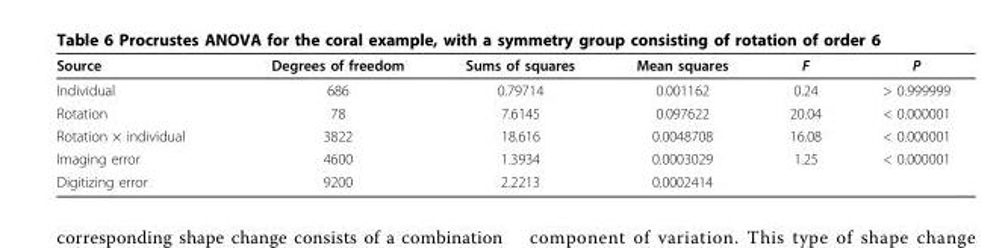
<table><thead><tr><td>Source</td><td>Degrees of freedom</td><td>Sums of squares</td><td>Mean squares</td><td>F</td><td>P</td></tr></thead><tbody><tr><td>Individual</td><td>686</td><td>0.79714</td><td>0.001162</td><td>0.24</td><td>&gt; 0.999999</td></tr><tr><td>Rotation</td><td>78</td><td>7.6145</td><td>0.097622</td><td>20.04</td><td>&lt; 0.000001</td></tr><tr><td>Rotation × individual</td><td>3822</td><td>18.616</td><td>0.0048708</td><td>16.08</td><td>&lt; 0.000001</td></tr><tr><td>Imaging error</td><td>4600</td><td>1.3934</td><td>0.0003029</td><td>1.25</td><td>&lt; 0.000001</td></tr><tr><td>Digitizing error</td><td>9200</td><td>2.2213</td><td>0.0002414</td><td></td><td></td></tr></tbody></table>